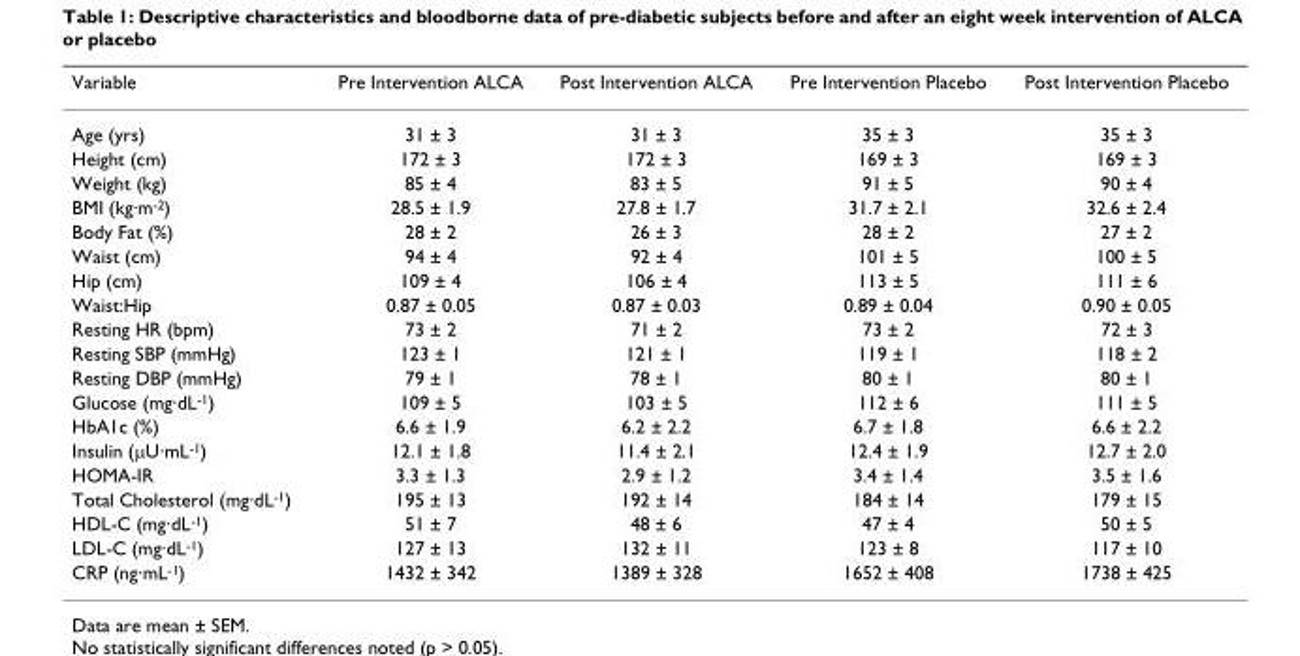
<table><thead><tr><td>Variable</td><td>Pre Intervention ALCA</td><td>Post Intervention ALCA</td><td>Pre Intervention Placebo</td><td>Post Intervention Placebo</td></tr></thead><tbody><tr><td>Age (yrs)</td><td>31 ± 3</td><td>31 ± 3</td><td>35 ± 3</td><td>35 ± 3</td></tr><tr><td>Height (cm)</td><td>172 ± 3</td><td>172 ± 3</td><td>169 ± 3</td><td>169 ± 3</td></tr><tr><td>Weight (kg)</td><td>85 ± 4</td><td>83 ± 5</td><td>91 ± 5</td><td>90 ± 4</td></tr><tr><td>BMI (kg·m<sup>-2</sup>)</td><td>28.5 ± 1.9</td><td>27.8 ± 1.7</td><td>31.7 ± 2.1</td><td>32.6 ± 2.4</td></tr><tr><td>Body Fat (%)</td><td>28 ± 2</td><td>26 ± 3</td><td>28 ± 2</td><td>27 ± 2</td></tr><tr><td>Waist (cm)</td><td>94 ± 4</td><td>92 ± 4</td><td>101 ± 5</td><td>100 ± 5</td></tr><tr><td>Hip (cm)</td><td>109 ± 4</td><td>106 ± 4</td><td>113 ± 5</td><td>111 ± 6</td></tr><tr><td>Waist:Hip</td><td>0.87 ± 0.05</td><td>0.87 ± 0.03</td><td>0.89 ± 0.04</td><td>0.90 ± 0.05</td></tr><tr><td>Resting HR (bpm)</td><td>73 ± 2</td><td>71 ± 2</td><td>73 ± 2</td><td>72 ± 3</td></tr><tr><td>Resting SBP (mmHg)</td><td>123 ± 1</td><td>121 ± 1</td><td>119 ± 1</td><td>118 ± 2</td></tr><tr><td>Resting DBP (mmHg)</td><td>79 ± 1</td><td>78 ± 1</td><td>80 ± 1</td><td>80 ± 1</td></tr><tr><td>Glucose (mg·dL<sup>-1</sup>)</td><td>109 ± 5</td><td>103 ± 5</td><td>112 ± 6</td><td>111 ± 5</td></tr><tr><td>HbA1c (%)</td><td>6.6 ± 1.9</td><td>6.2 ± 2.2</td><td>6.7 ± 1.8</td><td>6.6 ± 2.2</td></tr><tr><td>Insulin (μU·mL<sup>-1</sup>)</td><td>12.1 ± 1.8</td><td>11.4 ± 2.1</td><td>12.4 ± 1.9</td><td>12.7 ± 2.0</td></tr><tr><td>HOMA-IR</td><td>3.3 ± 1.3</td><td>2.9 ± 1.2</td><td>3.4 ± 1.4</td><td>3.5 ± 1.6</td></tr><tr><td>Total Cholesterol (mg·dL<sup>-1</sup>)</td><td>195 ± 13</td><td>192 ± 14</td><td>184 ± 14</td><td>179 ± 15</td></tr><tr><td>HDL-C (mg·dL<sup>-1</sup>)</td><td>51 ± 7</td><td>48 ± 6</td><td>47 ± 4</td><td>50 ± 5</td></tr><tr><td>LDL-C (mg·dL<sup>-1</sup>)</td><td>127 ± 13</td><td>132 ± 11</td><td>123 ± 8</td><td>117 ± 10</td></tr><tr><td>CRP (ng·mL<sup>-1</sup>)</td><td>1432 ± 342</td><td>1389 ± 328</td><td>1652 ± 408</td><td>1738 ± 425</td></tr></tbody></table>